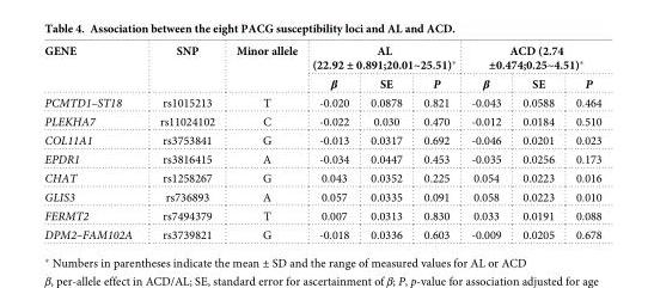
<table><thead><tr><td rowspan="2">GENE</td><td rowspan="2">SNP</td><td rowspan="2">Minor allele</td><td colspan="3">AL (22.92 ± 0.891;20.01~25.51)*</td><td colspan="3">ACD (2.74 ±0.474;0.25~4.51)*</td></tr><tr><td>β</td><td>SE</td><td>P</td><td>β</td><td>SE</td><td>P</td></tr></thead><tbody><tr><td>PCMTD1–ST18</td><td>rs1015213</td><td>T</td><td>-0.020</td><td>0.0878</td><td>0.821</td><td>-0.043</td><td>0.0588</td><td>0.464</td></tr><tr><td>PLEKHA7</td><td>rs11024102</td><td>C</td><td>-0.022</td><td>0.030</td><td>0.470</td><td>-0.012</td><td>0.0184</td><td>0.510</td></tr><tr><td>COL11A1</td><td>rs3753841</td><td>G</td><td>-0.013</td><td>0.0317</td><td>0.692</td><td>-0.046</td><td>0.0201</td><td>0.023</td></tr><tr><td>EPDR1</td><td>rs3816415</td><td>A</td><td>-0.034</td><td>0.0447</td><td>0.453</td><td>-0.035</td><td>0.0256</td><td>0.173</td></tr><tr><td>CHAT</td><td>rs1258267</td><td>G</td><td>0.043</td><td>0.0352</td><td>0.225</td><td>0.054</td><td>0.0223</td><td>0.016</td></tr><tr><td>GLIS3</td><td>rs736893</td><td>A</td><td>0.057</td><td>0.0335</td><td>0.091</td><td>0.058</td><td>0.0223</td><td>0.010</td></tr><tr><td>FERMT2</td><td>rs7494379</td><td>T</td><td>0.007</td><td>0.0313</td><td>0.830</td><td>0.033</td><td>0.0191</td><td>0.088</td></tr><tr><td>DPM2–FAM102A</td><td>rs3739821</td><td>G</td><td>-0.018</td><td>0.0336</td><td>0.603</td><td>-0.009</td><td>0.0205</td><td>0.678</td></tr></tbody></table>